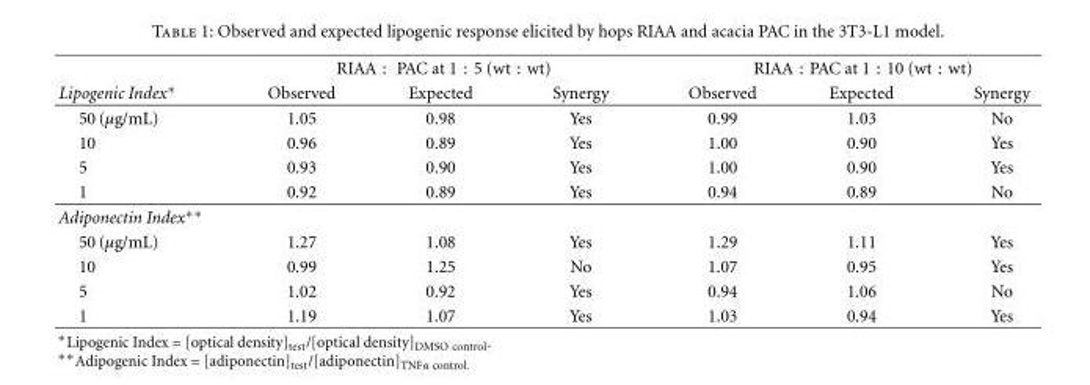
<table><thead><tr><td rowspan="2">Lipogenic Index∗</td><td colspan="3">RIAA : PAC at 1 : 5 (wt : wt)</td><td colspan="3">RIAA : PAC at 1 : 10 (wt : wt)</td></tr><tr><td>Observed</td><td>Expected</td><td>Synergy</td><td>Observed</td><td>Expected</td><td>Synergy</td></tr></thead><tbody><tr><td>50 (μg/mL)</td><td>1.05</td><td>0.98</td><td>Yes</td><td>0.99</td><td>1.03</td><td>No</td></tr><tr><td>10</td><td>0.96</td><td>0.89</td><td>Yes</td><td>1.00</td><td>0.90</td><td>Yes</td></tr><tr><td>5</td><td>0.93</td><td>0.90</td><td>Yes</td><td>1.00</td><td>0.90</td><td>Yes</td></tr><tr><td>1</td><td>0.92</td><td>0.89</td><td>Yes</td><td>0.94</td><td>0.89</td><td>No</td></tr><tr><td colspan="7">Adiponectin Index∗∗</td></tr><tr><td>50 (μg/mL)</td><td>1.27</td><td>1.08</td><td>Yes</td><td>1.29</td><td>1.11</td><td>Yes</td></tr><tr><td>10</td><td>0.99</td><td>1.25</td><td>No</td><td>1.07</td><td>0.95</td><td>Yes</td></tr><tr><td>5</td><td>1.02</td><td>0.92</td><td>Yes</td><td>0.94</td><td>1.06</td><td>No</td></tr><tr><td>1</td><td>1.19</td><td>1.07</td><td>Yes</td><td>1.03</td><td>0.94</td><td>Yes</td></tr></tbody></table>